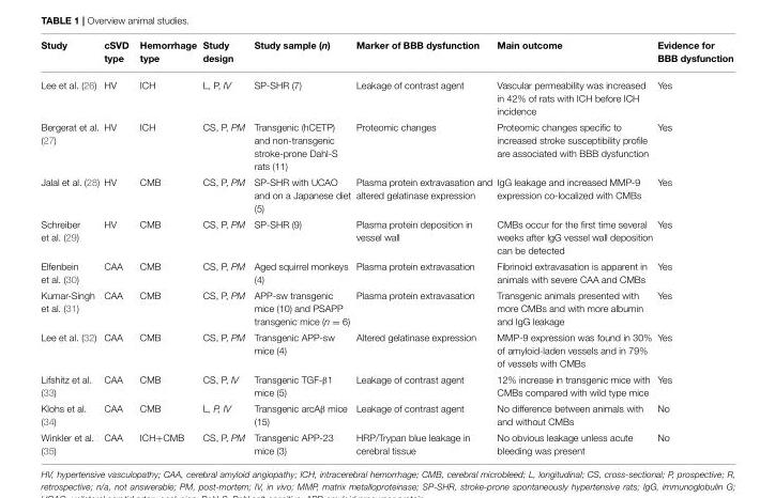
<table><thead><tr><td>Study</td><td>cSVD type</td><td>Hemorrhage type</td><td>Study design</td><td>Study sample (n)</td><td>Marker of BBB dysfunction</td><td>Main outcome</td><td>Evidence for BBB dysfunction</td></tr></thead><tbody><tr><td>Lee et al. (26)</td><td>HV</td><td>ICH</td><td>L, P, IV</td><td>SP-SHR (7)</td><td>Leakage of contrast agent</td><td>Vascular permeability was increased in 42% of rats with ICH before ICH incidence</td><td>Yes</td></tr><tr><td>Bergerat et al. (27)</td><td>HV</td><td>ICH</td><td>CS, P, PM</td><td>Transgenic (hCETP) and non-transgenic stroke-prone Dahl-S rats (11)</td><td>Proteomic changes</td><td>Proteomic changes specific to increased stroke susceptibility profile are associated with BBB dysfunction</td><td>Yes</td></tr><tr><td>Jalal et al. (28)</td><td>HV</td><td>CMB</td><td>CS, P, PM</td><td>SP-SHR with UCAO and on a Japanese diet (5)</td><td>Plasma protein extravasation and altered gelatinase expression</td><td>IgG leakage and increased MMP-9 expression co-localized with CMBs</td><td>Yes</td></tr><tr><td>Schreiber et al. (29)</td><td>HV</td><td>CMB</td><td>CS, P, PM</td><td>SP-SHR (9)</td><td>Plasma protein deposition in vessel wall</td><td>CMBs occur for the first time several weeks after IgG vessel wall deposition can be detected</td><td>Yes</td></tr><tr><td>Elfenbein et al. (30)</td><td>CAA</td><td>CMB</td><td>CS, P, PM</td><td>Aged squirrel monkeys (4)</td><td>Plasma protein extravasation</td><td>Fibrinoid extravasation is apparent in animals with severe CAA and CMBs</td><td>Yes</td></tr><tr><td>Kumar-Singh et al. (31)</td><td>CAA</td><td>CMB</td><td>CS, P, PM</td><td>APP-sw transgenic mice (10) and PSAPP transgenic mice (n = 6)</td><td>Plasma protein extravasation</td><td>Transgenic animals presented with more CMBs and with more albumin and IgG leakage</td><td>Yes</td></tr><tr><td>Lee et al. (32)</td><td>CAA</td><td>CMB</td><td>CS, P, PM</td><td>Transgenic APP-sw mice (4)</td><td>Altered gelatinase expression</td><td>MMP-9 expression was found in 30% of amyloid-laden vessels and in 79% of vessels with CMBs</td><td>Yes</td></tr><tr><td>Lifshitz et al. (33)</td><td>CAA</td><td>CMB</td><td>CS, P, IV</td><td>Transgenic TGF-β1 mice (5)</td><td>Leakage of contrast agent</td><td>12% increase in transgenic mice with CMBs compared with wild type mice</td><td>Yes</td></tr><tr><td>Klohs et al. (34)</td><td>CAA</td><td>CMB</td><td>L, P, IV</td><td>Transgenic arcAβ mice (15)</td><td>Leakage of contrast agent</td><td>No difference between animals with and without CMBs</td><td>No</td></tr><tr><td>Winkler et al. (35)</td><td>CAA</td><td>ICH+CMB</td><td>CS, P, PM</td><td>Transgenic APP-23 mice (3)</td><td>HRP/Trypan blue leakage in cerebral tissue</td><td>No obvious leakage unless acute bleeding was present</td><td>No</td></tr></tbody></table>